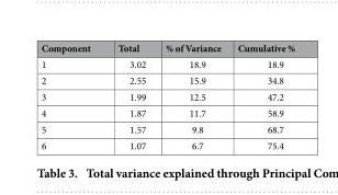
<table><thead><tr><td>Component</td><td>Total</td><td>% of Variance</td><td>Cumulative %</td></tr></thead><tbody><tr><td>1</td><td>3.02</td><td>18.9</td><td>18.9</td></tr><tr><td>2</td><td>2.55</td><td>15.9</td><td>34.8</td></tr><tr><td>3</td><td>1.99</td><td>12.5</td><td>47.2</td></tr><tr><td>4</td><td>1.87</td><td>11.7</td><td>58.9</td></tr><tr><td>5</td><td>1.57</td><td>9.8</td><td>68.7</td></tr><tr><td>6</td><td>1.07</td><td>6.7</td><td>75.4</td></tr></tbody></table>